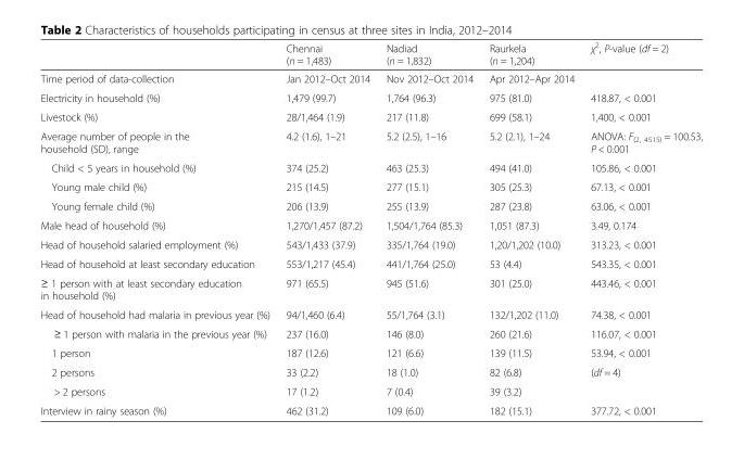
<table><thead><tr><td></td><td>Chennai (n = 1,483)</td><td>Nadiad (n = 1,832)</td><td>Raurkela (n = 1,204)</td><td>χ<sup>2</sup>, P-value (df = 2)</td></tr></thead><tbody><tr><td>Time period of data-collection</td><td>Jan 2012–Oct 2014</td><td>Nov 2012–Oct 2014</td><td>Apr 2012–Apr 2014</td><td></td></tr><tr><td>Electricity in household (%)</td><td>1,479 (99.7)</td><td>1,764 (96.3)</td><td>975 (81.0)</td><td>418.87, &lt; 0.001</td></tr><tr><td>Livestock (%)</td><td>28/1,464 (1.9)</td><td>217 (11.8)</td><td>699 (58.1)</td><td>1,400, &lt; 0.001</td></tr><tr><td>Average number of people in the household (SD), range</td><td>4.2 (1.6), 1–21</td><td>5.2 (2.5), 1–16</td><td>5.2 (2.1), 1–24</td><td>ANOVA: F<sub>(2, 4515)</sub> = 100.53, P &lt; 0.001</td></tr><tr><td>Child &lt; 5 years in household (%)</td><td>374 (25.2)</td><td>463 (25.3)</td><td>494 (41.0)</td><td>105.86, &lt; 0.001</td></tr><tr><td>Young male child (%)</td><td>215 (14.5)</td><td>277 (15.1)</td><td>305 (25.3)</td><td>67.13, &lt; 0.001</td></tr><tr><td>Young female child (%)</td><td>206 (13.9)</td><td>255 (13.9)</td><td>287 (23.8)</td><td>63.06, &lt; 0.001</td></tr><tr><td>Male head of household (%)</td><td>1,270/1,457 (87.2)</td><td>1,504/1,764 (85.3)</td><td>1,051 (87.3)</td><td>3.49, 0.174</td></tr><tr><td>Head of household salaried employment (%)</td><td>543/1,433 (37.9)</td><td>335/1,764 (19.0)</td><td>1,20/1,202 (10.0)</td><td>313.23, &lt; 0.001</td></tr><tr><td>Head of household at least secondary education</td><td>553/1,217 (45.4)</td><td>441/1,764 (25.0)</td><td>53 (4.4)</td><td>543.35, &lt; 0.001</td></tr><tr><td>≥ 1 person with at least secondary education in household (%)</td><td>971 (65.5)</td><td>945 (51.6)</td><td>301 (25.0)</td><td>443.46, &lt; 0.001</td></tr><tr><td>Head of household had malaria in previous year (%)</td><td>94/1,460 (6.4)</td><td>55/1,764 (3.1)</td><td>132/1,202 (11.0)</td><td>74.38, &lt; 0.001</td></tr><tr><td>≥ 1 person with malaria in the previous year (%)</td><td>237 (16.0)</td><td>146 (8.0)</td><td>260 (21.6)</td><td>116.07, &lt; 0.001</td></tr><tr><td>1 person</td><td>187 (12.6)</td><td>121 (6.6)</td><td>139 (11.5)</td><td>53.94, &lt; 0.001</td></tr><tr><td>2 persons</td><td>33 (2.2)</td><td>18 (1.0)</td><td>82 (6.8)</td><td>(df = 4)</td></tr><tr><td>&gt; 2 persons</td><td>17 (1.2)</td><td>7 (0.4)</td><td>39 (3.2)</td><td></td></tr><tr><td>Interview in rainy season (%)</td><td>462 (31.2)</td><td>109 (6.0)</td><td>182 (15.1)</td><td>377.72, &lt; 0.001</td></tr></tbody></table>